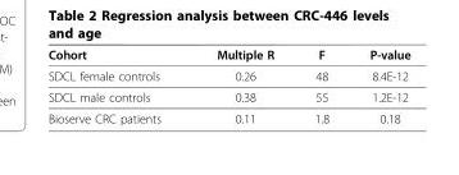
<table><thead><tr><td>Cohort</td><td>Multiple R</td><td>F</td><td>P-value</td></tr></thead><tbody><tr><td>SDCL female controls</td><td>0.26</td><td>48</td><td>8.4E-12</td></tr><tr><td>SDCL male controls</td><td>0.38</td><td>55</td><td>1.2E-12</td></tr><tr><td>Bioserve CRC patients</td><td>0.11</td><td>1.8</td><td>0.18</td></tr></tbody></table>